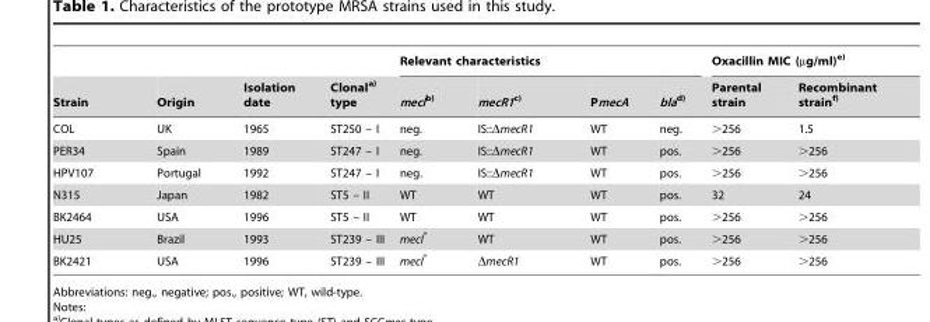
<table><thead><tr><td rowspan="2">Strain</td><td rowspan="2">Origin</td><td rowspan="2">Isolation date</td><td rowspan="2">Clonala) type</td><td colspan="4">Relevant characteristics</td><td colspan="2">Oxacillin MIC (µg/ml)e)</td></tr><tr><td>mecIb)</td><td>mecR1c)</td><td>PmecA</td><td>blad)</td><td>Parental strain</td><td>Recombinant strainf)</td></tr></thead><tbody><tr><td>COL</td><td>UK</td><td>1965</td><td>ST250 – I</td><td>neg.</td><td>IS::ΔmecR1</td><td>WT</td><td>neg.</td><td>&gt;256</td><td>1.5</td></tr><tr><td>PER34</td><td>Spain</td><td>1989</td><td>ST247 – I</td><td>neg.</td><td>IS::ΔmecR1</td><td>WT</td><td>pos.</td><td>&gt;256</td><td>&gt;256</td></tr><tr><td>HPV107</td><td>Portugal</td><td>1992</td><td>ST247 – I</td><td>neg.</td><td>IS::ΔmecR1</td><td>WT</td><td>pos.</td><td>&gt;256</td><td>&gt;256</td></tr><tr><td>N315</td><td>Japan</td><td>1982</td><td>ST5 – II</td><td>WT</td><td>WT</td><td>WT</td><td>pos.</td><td>32</td><td>24</td></tr><tr><td>BK2464</td><td>USA</td><td>1996</td><td>ST5 – II</td><td>WT</td><td>WT</td><td>WT</td><td>pos.</td><td>&gt;256</td><td>&gt;256</td></tr><tr><td>HU25</td><td>Brazil</td><td>1993</td><td>ST239 – III</td><td>mecI*</td><td>WT</td><td>WT</td><td>pos.</td><td>&gt;256</td><td>&gt;256</td></tr><tr><td>BK2421</td><td>USA</td><td>1996</td><td>ST239 – III</td><td>mecI*</td><td>ΔmecR1</td><td>WT</td><td>pos.</td><td>&gt;256</td><td>&gt;256</td></tr></tbody></table>